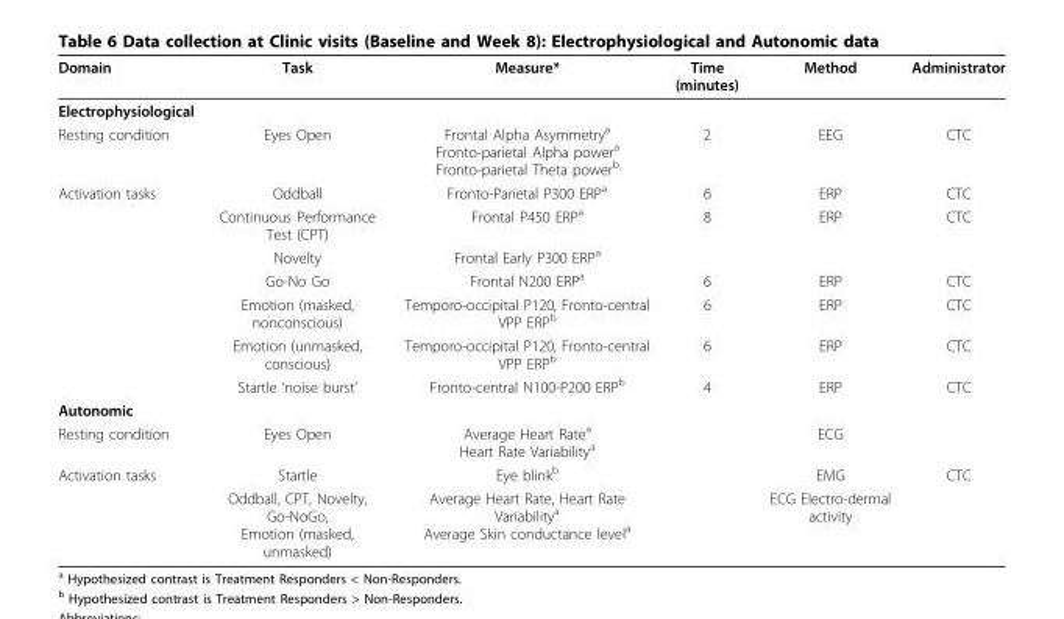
<table><thead><tr><td>Domain</td><td>Task</td><td>Measure*</td><td>Time (minutes)</td><td>Method</td><td>Administrator</td></tr></thead><tbody><tr><td colspan="6">Electrophysiological</td></tr><tr><td>Resting condition</td><td>Eyes Open</td><td>Frontal Alpha Asymmetry<sup>a</sup> Fronto-parietal Alpha power<sup>a</sup> Fronto-parietal Theta power<sup>b</sup></td><td>2</td><td>EEG</td><td>CTC</td></tr><tr><td rowspan="7">Activation tasks</td><td>Oddball</td><td>Fronto-Parietal P300 ERP<sup>a</sup></td><td>6</td><td>ERP</td><td>CTC</td></tr><tr><td>Continuous Performance Test (CPT)</td><td>Frontal P450 ERP<sup>a</sup></td><td>8</td><td>ERP</td><td>CTC</td></tr><tr><td>Novelty</td><td>Frontal Early P300 ERP<sup>a</sup></td><td></td><td></td><td></td></tr><tr><td>Go-No Go</td><td>Frontal N200 ERP<sup>a</sup></td><td>6</td><td>ERP</td><td>CTC</td></tr><tr><td>Emotion (masked, nonconscious)</td><td>Temporo-occipital P120, Fronto-central VPP ERP<sup>b</sup></td><td>6</td><td>ERP</td><td>CTC</td></tr><tr><td>Emotion (unmasked, conscious)</td><td>Temporo-occipital P120, Fronto-central VPP ERP<sup>b</sup></td><td>6</td><td>ERP</td><td>CTC</td></tr><tr><td>Startle ‘noise burst’</td><td>Fronto-central N100-P200 ERP<sup>b</sup></td><td>4</td><td>ERP</td><td>CTC</td></tr><tr><td colspan="6">Autonomic</td></tr><tr><td>Resting condition</td><td>Eyes Open</td><td>Average Heart Rate<sup>a</sup> Heart Rate Variability<sup>a</sup></td><td></td><td>ECG</td><td></td></tr><tr><td rowspan="2">Activation tasks</td><td>Startle</td><td>Eye blink<sup>b</sup></td><td></td><td>EMG</td><td>CTC</td></tr><tr><td>Oddball, CPT, Novelty, Go-NoGo, Emotion (masked, unmasked)</td><td>Average Heart Rate, Heart Rate Variability<sup>a</sup> Average Skin conductance level<sup>a</sup></td><td></td><td>ECG Electro-dermal activity</td><td></td></tr></tbody></table>